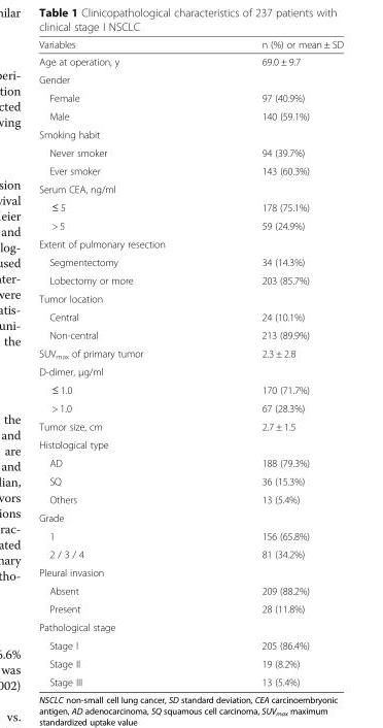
<table><thead><tr><td>Variables</td><td>n (%) or mean ± SD</td></tr></thead><tbody><tr><td>Age at operation, y</td><td>69.0 ± 9.7</td></tr><tr><td colspan="2">Gender</td></tr><tr><td>Female</td><td>97 (40.9%)</td></tr><tr><td>Male</td><td>140 (59.1%)</td></tr><tr><td colspan="2">Smoking habit</td></tr><tr><td>Never smoker</td><td>94 (39.7%)</td></tr><tr><td>Ever smoker</td><td>143 (60.3%)</td></tr><tr><td colspan="2">Serum CEA, ng/ml</td></tr><tr><td>≤ 5</td><td>178 (75.1%)</td></tr><tr><td>&gt; 5</td><td>59 (24.9%)</td></tr><tr><td colspan="2">Extent of pulmonary resection</td></tr><tr><td>Segmentectomy</td><td>34 (14.3%)</td></tr><tr><td>Lobectomy or more</td><td>203 (85.7%)</td></tr><tr><td colspan="2">Tumor location</td></tr><tr><td>Central</td><td>24 (10.1%)</td></tr><tr><td>Non-central</td><td>213 (89.9%)</td></tr><tr><td>SUV<sub>max</sub> of primary tumor</td><td>2.3 ± 2.8</td></tr><tr><td colspan="2">D-dimer, μg/ml</td></tr><tr><td>≤ 1.0</td><td>170 (71.7%)</td></tr><tr><td>&gt; 1.0</td><td>67 (28.3%)</td></tr><tr><td>Tumor size, cm</td><td>2.7 ± 1.5</td></tr><tr><td colspan="2">Histological type</td></tr><tr><td>AD</td><td>188 (79.3%)</td></tr><tr><td>SQ</td><td>36 (15.3%)</td></tr><tr><td>Others</td><td>13 (5.4%)</td></tr><tr><td colspan="2">Grade</td></tr><tr><td>1</td><td>156 (65.8%)</td></tr><tr><td>2 / 3 / 4</td><td>81 (34.2%)</td></tr><tr><td colspan="2">Pleural invasion</td></tr><tr><td>Absent</td><td>209 (88.2%)</td></tr><tr><td>Present</td><td>28 (11.8%)</td></tr><tr><td colspan="2">Pathological stage</td></tr><tr><td>Stage I</td><td>205 (86.4%)</td></tr><tr><td>Stage II</td><td>19 (8.2%)</td></tr><tr><td>Stage III</td><td>13 (5.4%)</td></tr></tbody></table>